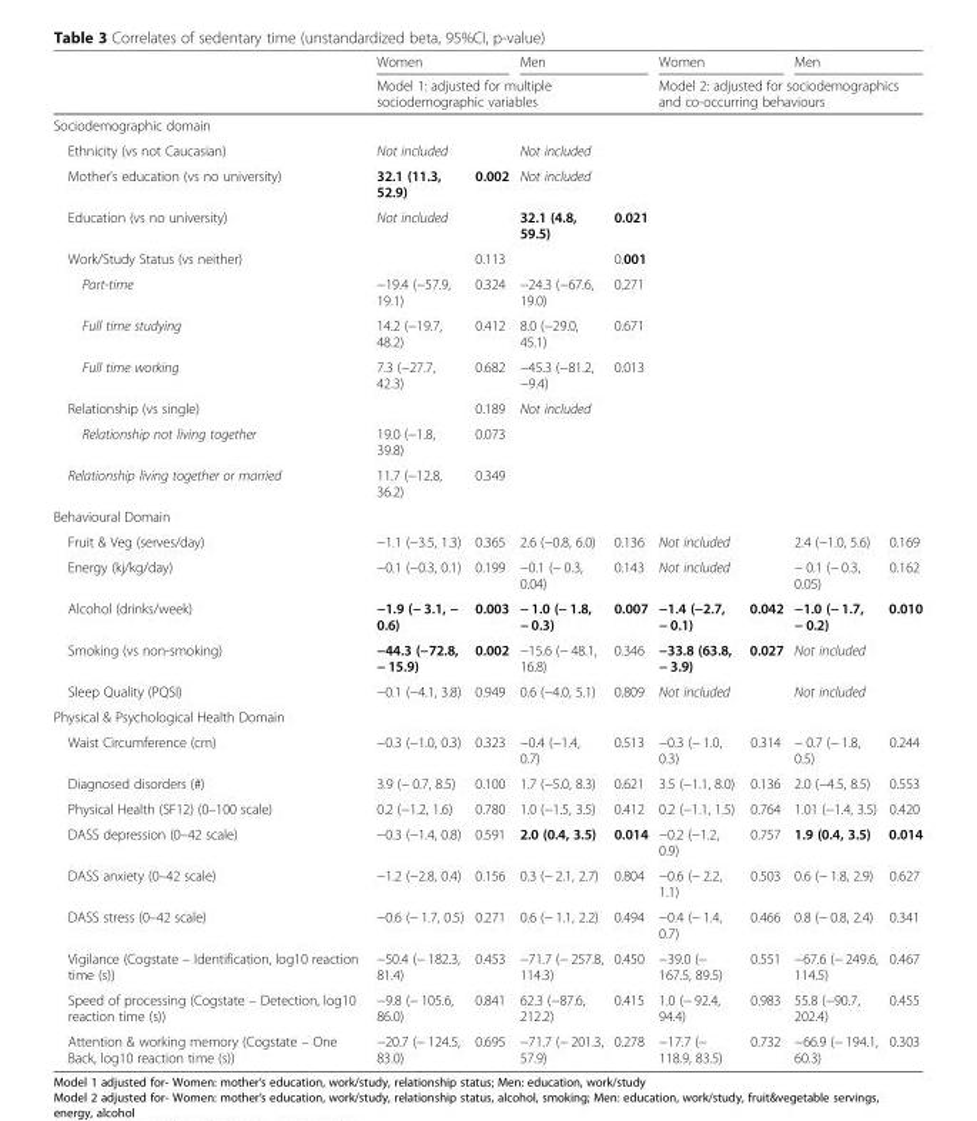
<table><thead><tr><td rowspan="2"></td><td colspan="2">Women</td><td colspan="2">Men</td><td colspan="2">Women</td><td colspan="2">Men</td></tr><tr><td colspan="4">Model 1: adjusted for multiple sociodemographic variables</td><td colspan="4">Model 2: adjusted for sociodemographics and co-occurring behaviours</td></tr><tr><td colspan="9">Sociodemographic domain</td></tr><tr><td>Ethnicity (vs not Caucasian)</td><td>Not included</td><td></td><td>Not included</td><td></td><td></td><td></td><td></td><td></td></tr></thead><tbody><tr><td>Mother’s education (vs no university)</td><td>32.1 (11.3, 52.9)</td><td>0.002</td><td>Not included</td><td></td><td></td><td></td><td></td><td></td></tr><tr><td>Education (vs no university)</td><td>Not included</td><td></td><td>32.1 (4.8, 59.5)</td><td>0.021</td><td></td><td></td><td></td><td></td></tr><tr><td>Work/Study Status (vs neither)</td><td></td><td>0.113</td><td></td><td>0.001</td><td></td><td></td><td></td><td></td></tr><tr><td>Part-time</td><td>−19.4 (−57.9, 19.1)</td><td>0.324</td><td>−24.3 (−67.6, 19.0)</td><td>0.271</td><td></td><td></td><td></td><td></td></tr><tr><td>Full time studying</td><td>14.2 (−19.7, 48.2)</td><td>0.412</td><td>8.0 (−29.0, 45.1)</td><td>0.671</td><td></td><td></td><td></td><td></td></tr><tr><td>Full time working</td><td>7.3 (−27.7, 42.3)</td><td>0.682</td><td>−45.3 (−81.2, −9.4)</td><td>0.013</td><td></td><td></td><td></td><td></td></tr><tr><td>Relationship (vs single)</td><td></td><td>0.189</td><td>Not included</td><td></td><td></td><td></td><td></td><td></td></tr><tr><td>Relationship not living together</td><td>19.0 (−1.8, 39.8)</td><td>0.073</td><td></td><td></td><td></td><td></td><td></td><td></td></tr><tr><td>Relationship living together or married</td><td>11.7 (−12.8, 36.2)</td><td>0.349</td><td></td><td></td><td></td><td></td><td></td><td></td></tr><tr><td colspan="9">Behavioural Domain</td></tr><tr><td>Fruit &amp; Veg (serves/day)</td><td>−1.1 (−3.5, 1.3)</td><td>0.365</td><td>2.6 (−0.8, 6.0)</td><td>0.136</td><td>Not included</td><td></td><td>2.4 (−1.0, 5.6)</td><td>0.169</td></tr><tr><td>Energy (kj/kg/day)</td><td>−0.1 (−0.3, 0.1)</td><td>0.199</td><td>−0.1 (− 0.3, 0.04)</td><td>0.143</td><td>Not included</td><td></td><td>− 0.1 (− 0.3, 0.05)</td><td>0.162</td></tr><tr><td>Alcohol (drinks/week)</td><td>−1.9 (− 3.1, − 0.6)</td><td>0.003</td><td>− 1.0 (− 1.8, − 0.3)</td><td>0.007</td><td>−1.4 (−2.7, − 0.1)</td><td>0.042</td><td>−1.0 (− 1.7, − 0.2)</td><td>0.010</td></tr><tr><td>Smoking (vs non-smoking)</td><td>−44.3 (−72.8, − 15.9)</td><td>0.002</td><td>−15.6 (− 48.1, 16.8)</td><td>0.346</td><td>−33.8 (63.8, − 3.9)</td><td>0.027</td><td>Not included</td><td></td></tr><tr><td>Sleep Quality (PQSI)</td><td>−0.1 (−4.1, 3.8)</td><td>0.949</td><td>0.6 (−4.0, 5.1)</td><td>0.809</td><td>Not included</td><td></td><td>Not included</td><td></td></tr><tr><td colspan="9">Physical &amp; Psychological Health Domain</td></tr><tr><td>Waist Circumference (cm)</td><td>−0.3 (−1.0, 0.3)</td><td>0.323</td><td>−0.4 (−1.4, 0.7)</td><td>0.513</td><td>−0.3 (− 1.0, 0.3)</td><td>0.314</td><td>− 0.7 (− 1.8, 0.5)</td><td>0.244</td></tr><tr><td>Diagnosed disorders (#)</td><td>3.9 (− 0.7, 8.5)</td><td>0.100</td><td>1.7 (−5.0, 8.3)</td><td>0.621</td><td>3.5 (−1.1, 8.0)</td><td>0.136</td><td>2.0 (−4.5, 8.5)</td><td>0.553</td></tr><tr><td>Physical Health (SF12) (0–100 scale)</td><td>0.2 (−1.2, 1.6)</td><td>0.780</td><td>1.0 (−1.5, 3.5)</td><td>0.412</td><td>0.2 (−1.1, 1.5)</td><td>0.764</td><td>1.01 (−1.4, 3.5)</td><td>0.420</td></tr><tr><td>DASS depression (0–42 scale)</td><td>−0.3 (−1.4, 0.8)</td><td>0.591</td><td>2.0 (0.4, 3.5)</td><td>0.014</td><td>−0.2 (−1.2, 0.9)</td><td>0.757</td><td>1.9 (0.4, 3.5)</td><td>0.014</td></tr><tr><td>DASS anxiety (0–42 scale)</td><td>−1.2 (−2.8, 0.4)</td><td>0.156</td><td>0.3 (− 2.1, 2.7)</td><td>0.804</td><td>−0.6 (− 2.2, 1.1)</td><td>0.503</td><td>0.6 (− 1.8, 2.9)</td><td>0.627</td></tr><tr><td>DASS stress (0–42 scale)</td><td>−0.6 (− 1.7, 0.5)</td><td>0.271</td><td>0.6 (− 1.1, 2.2)</td><td>0.494</td><td>−0.4 (− 1.4, 0.7)</td><td>0.466</td><td>0.8 (− 0.8, 2.4)</td><td>0.341</td></tr><tr><td>Vigilance (Cogstate – Identification, log10 reaction time (s))</td><td>−50.4 (− 182.3, 81.4)</td><td>0.453</td><td>−71.7 (− 257.8, 114.3)</td><td>0.450</td><td>−39.0 (− 167.5, 89.5)</td><td>0.551</td><td>−67.6 (− 249.6, 114.5)</td><td>0.467</td></tr><tr><td>Speed of processing (Cogstate – Detection, log10 reaction time (s))</td><td>−9.8 (− 105.6, 86.0)</td><td>0.841</td><td>62.3 (−87.6, 212.2)</td><td>0.415</td><td>1.0 (− 92.4, 94.4)</td><td>0.983</td><td>55.8 (−90.7, 202.4)</td><td>0.455</td></tr><tr><td>Attention &amp; working memory (Cogstate – One Back, log10 reaction time (s))</td><td>−20.7 (− 124.5, 83.0)</td><td>0.695</td><td>−71.7 (− 201.3, 57.9)</td><td>0.278</td><td>−17.7 (− 118.9, 83.5)</td><td>0.732</td><td>−66.9 (− 194.1, 60.3)</td><td>0.303</td></tr></tbody></table>